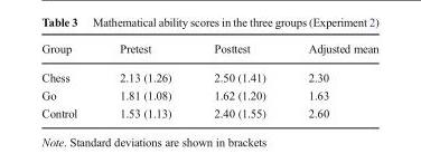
<table><thead><tr><td>Group</td><td>Pretest</td><td>Posttest</td><td>Adjusted mean</td></tr></thead><tbody><tr><td>Chess</td><td>2.13 (1.26)</td><td>2.50 (1.41)</td><td>2.30</td></tr><tr><td>Go</td><td>1.81 (1.08)</td><td>1.62 (1.20)</td><td>1.63</td></tr><tr><td>Control</td><td>1.53 (1.13)</td><td>2.40 (1.55)</td><td>2.60</td></tr></tbody></table>